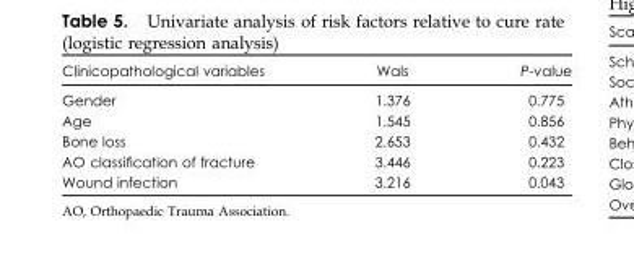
<table><thead><tr><td>Clinicopathological variables</td><td>Wals</td><td>P-value</td></tr></thead><tbody><tr><td>Gender</td><td>1.376</td><td>0.775</td></tr><tr><td>Age</td><td>1.545</td><td>0.856</td></tr><tr><td>Bone loss</td><td>2.653</td><td>0.432</td></tr><tr><td>AO classification of fracture</td><td>3.446</td><td>0.223</td></tr><tr><td>Wound infection</td><td>3.216</td><td>0.043</td></tr></tbody></table>